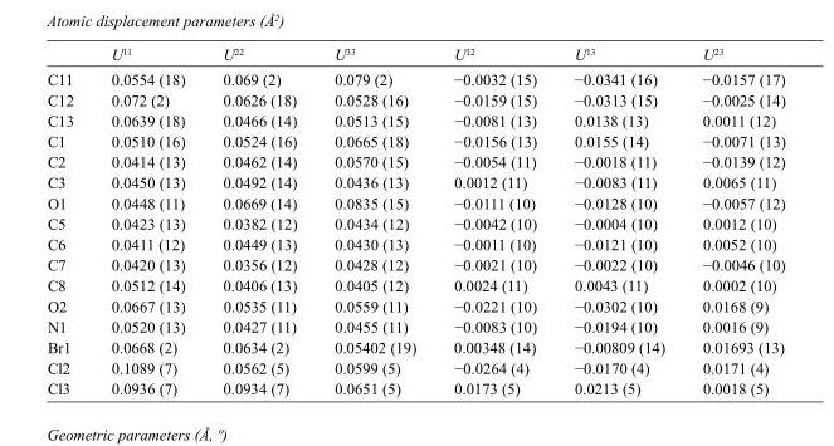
<table><thead><tr><td></td><td>U<sup>11</sup></td><td>U<sup>22</sup></td><td>U<sup>33</sup></td><td>U<sup>12</sup></td><td>U<sup>13</sup></td><td>U<sup>23</sup></td></tr></thead><tbody><tr><td>C11</td><td>0.0554 (18)</td><td>0.069 (2)</td><td>0.079 (2)</td><td>−0.0032 (15)</td><td>−0.0341 (16)</td><td>−0.0157 (17)</td></tr><tr><td>C12</td><td>0.072 (2)</td><td>0.0626 (18)</td><td>0.0528 (16)</td><td>−0.0159 (15)</td><td>−0.0313 (15)</td><td>−0.0025 (14)</td></tr><tr><td>C13</td><td>0.0639 (18)</td><td>0.0466 (14)</td><td>0.0513 (15)</td><td>−0.0081 (13)</td><td>0.0138 (13)</td><td>0.0011 (12)</td></tr><tr><td>C1</td><td>0.0510 (16)</td><td>0.0524 (16)</td><td>0.0665 (18)</td><td>−0.0156 (13)</td><td>0.0155 (14)</td><td>−0.0071 (13)</td></tr><tr><td>C2</td><td>0.0414 (13)</td><td>0.0462 (14)</td><td>0.0570 (15)</td><td>−0.0054 (11)</td><td>−0.0018 (11)</td><td>−0.0139 (12)</td></tr><tr><td>C3</td><td>0.0450 (13)</td><td>0.0492 (14)</td><td>0.0436 (13)</td><td>0.0012 (11)</td><td>−0.0083 (11)</td><td>0.0065 (11)</td></tr><tr><td>O1</td><td>0.0448 (11)</td><td>0.0669 (14)</td><td>0.0835 (15)</td><td>−0.0111 (10)</td><td>−0.0128 (10)</td><td>−0.0057 (12)</td></tr><tr><td>C5</td><td>0.0423 (13)</td><td>0.0382 (12)</td><td>0.0434 (12)</td><td>−0.0042 (10)</td><td>−0.0004 (10)</td><td>0.0012 (10)</td></tr><tr><td>C6</td><td>0.0411 (12)</td><td>0.0449 (13)</td><td>0.0430 (13)</td><td>−0.0011 (10)</td><td>−0.0121 (10)</td><td>0.0052 (10)</td></tr><tr><td>C7</td><td>0.0420 (13)</td><td>0.0356 (12)</td><td>0.0428 (12)</td><td>−0.0021 (10)</td><td>−0.0022 (10)</td><td>−0.0046 (10)</td></tr><tr><td>C8</td><td>0.0512 (14)</td><td>0.0406 (13)</td><td>0.0405 (12)</td><td>0.0024 (11)</td><td>0.0043 (11)</td><td>0.0002 (10)</td></tr><tr><td>O2</td><td>0.0667 (13)</td><td>0.0535 (11)</td><td>0.0559 (11)</td><td>−0.0221 (10)</td><td>−0.0302 (10)</td><td>0.0168 (9)</td></tr><tr><td>N1</td><td>0.0520 (13)</td><td>0.0427 (11)</td><td>0.0455 (11)</td><td>−0.0083 (10)</td><td>−0.0194 (10)</td><td>0.0016 (9)</td></tr><tr><td>Br1</td><td>0.0668 (2)</td><td>0.0634 (2)</td><td>0.05402 (19)</td><td>0.00348 (14)</td><td>−0.00809 (14)</td><td>0.01693 (13)</td></tr><tr><td>Cl2</td><td>0.1089 (7)</td><td>0.0562 (5)</td><td>0.0599 (5)</td><td>−0.0264 (4)</td><td>−0.0170 (4)</td><td>0.0171 (4)</td></tr><tr><td>Cl3</td><td>0.0936 (7)</td><td>0.0934 (7)</td><td>0.0651 (5)</td><td>0.0173 (5)</td><td>0.0213 (5)</td><td>0.0018 (5)</td></tr></tbody></table>